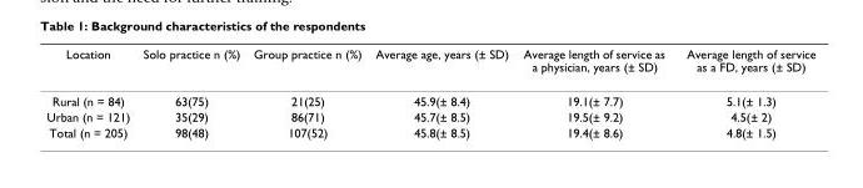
<table><thead><tr><td>Location</td><td>Solo practice n (%)</td><td>Group practice n (%)</td><td>Average age, years (± SD)</td><td>Average length of service as a physician, years (± SD)</td><td>Average length of service as a FD, years (± SD)</td></tr></thead><tbody><tr><td>Rural (n = 84)</td><td>63(75)</td><td>21(25)</td><td>45.9(± 8.4)</td><td>19.1(± 7.7)</td><td>5.1(± 1.3)</td></tr><tr><td>Urban (n = 121)</td><td>35(29)</td><td>86(71)</td><td>45.7(± 8.5)</td><td>19.5(± 9.2)</td><td>4.5(± 2)</td></tr><tr><td>Total (n = 205)</td><td>98(48)</td><td>107(52)</td><td>45.8(± 8.5)</td><td>19.4(± 8.6)</td><td>4.8(± 1.5)</td></tr></tbody></table>